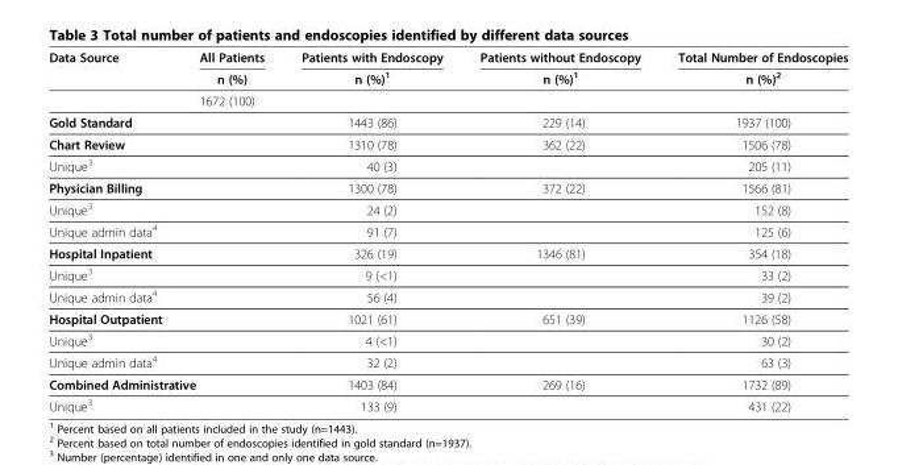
<table><thead><tr><td rowspan="2">Data Source</td><td rowspan="2">All Patients n (%)</td><td rowspan="2">Patients with Endoscopy n (%)<sup>1</sup></td><td rowspan="2">Patients without Endoscopy n (%)<sup>1</sup></td><td rowspan="2">Total Number of Endoscopies n (%)<sup>2</sup></td></tr><tr></tr></thead><tbody><tr><td></td><td>1672 (100)</td><td></td><td></td><td></td></tr><tr><td>Gold Standard</td><td></td><td>1443 (86)</td><td>229 (14)</td><td>1937 (100)</td></tr><tr><td>Chart Review</td><td></td><td>1310 (78)</td><td>362 (22)</td><td>1506 (78)</td></tr><tr><td>Unique<sup>3</sup></td><td></td><td>40 (3)</td><td></td><td>205 (11)</td></tr><tr><td>Physician Billing</td><td></td><td>1300 (78)</td><td>372 (22)</td><td>1566 (81)</td></tr><tr><td>Unique<sup>3</sup></td><td></td><td>24 (2)</td><td></td><td>152 (8)</td></tr><tr><td>Unique admin data<sup>4</sup></td><td></td><td>91 (7)</td><td></td><td>125 (6)</td></tr><tr><td>Hospital Inpatient</td><td></td><td>326 (19)</td><td>1346 (81)</td><td>354 (18)</td></tr><tr><td>Unique<sup>3</sup></td><td></td><td>9 (&lt;1)</td><td></td><td>33 (2)</td></tr><tr><td>Unique admin data<sup>4</sup></td><td></td><td>56 (4)</td><td></td><td>39 (2)</td></tr><tr><td>Hospital Outpatient</td><td></td><td>1021 (61)</td><td>651 (39)</td><td>1126 (58)</td></tr><tr><td>Unique<sup>3</sup></td><td></td><td>4 (&lt;1)</td><td></td><td>30 (2)</td></tr><tr><td>Unique admin data<sup>4</sup></td><td></td><td>32 (2)</td><td></td><td>63 (3)</td></tr><tr><td colspan="2">Combined Administrative</td><td>1403 (84)</td><td>269 (16)</td><td>1732 (89)</td></tr><tr><td>Unique<sup>3</sup></td><td></td><td>133 (9)</td><td></td><td>431 (22)</td></tr></tbody></table>